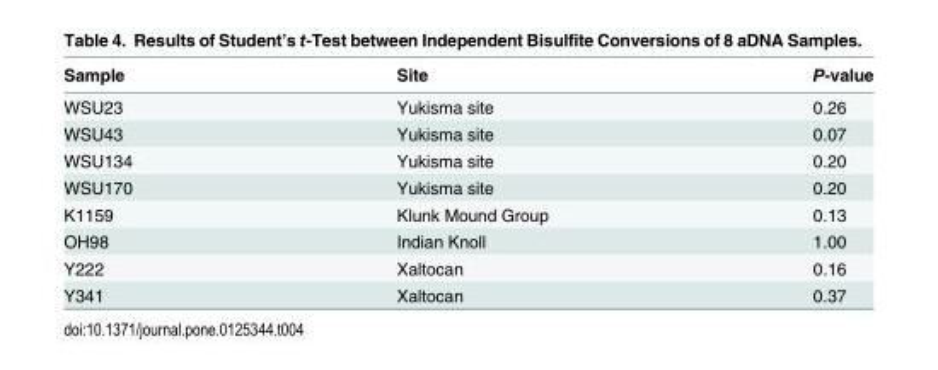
<table><thead><tr><td>Sample</td><td>Site</td><td>P-value</td></tr></thead><tbody><tr><td>WSU23</td><td>Yukisma site</td><td>0.26</td></tr><tr><td>WSU43</td><td>Yukisma site</td><td>0.07</td></tr><tr><td>WSU134</td><td>Yukisma site</td><td>0.20</td></tr><tr><td>WSU170</td><td>Yukisma site</td><td>0.20</td></tr><tr><td>K1159</td><td>Klunk Mound Group</td><td>0.13</td></tr><tr><td>OH98</td><td>Indian Knoll</td><td>1.00</td></tr><tr><td>Y222</td><td>Xaltocan</td><td>0.16</td></tr><tr><td>Y341</td><td>Xaltocan</td><td>0.37</td></tr></tbody></table>